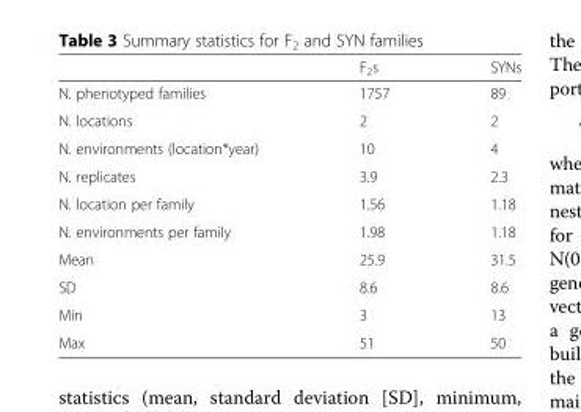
<table><thead><tr><td></td><td>F<sub>2</sub>s</td><td>SYNs</td></tr></thead><tbody><tr><td>N. phenotyped families</td><td>1757</td><td>89</td></tr><tr><td>N. locations</td><td>2</td><td>2</td></tr><tr><td>N. environments (location*year)</td><td>10</td><td>4</td></tr><tr><td>N. replicates</td><td>3.9</td><td>2.3</td></tr><tr><td>N. location per family</td><td>1.56</td><td>1.18</td></tr><tr><td>N. environments per family</td><td>1.98</td><td>1.18</td></tr><tr><td>Mean</td><td>25.9</td><td>31.5</td></tr><tr><td>SD</td><td>8.6</td><td>8.6</td></tr><tr><td>Min</td><td>3</td><td>13</td></tr><tr><td>Max</td><td>51</td><td>50</td></tr></tbody></table>